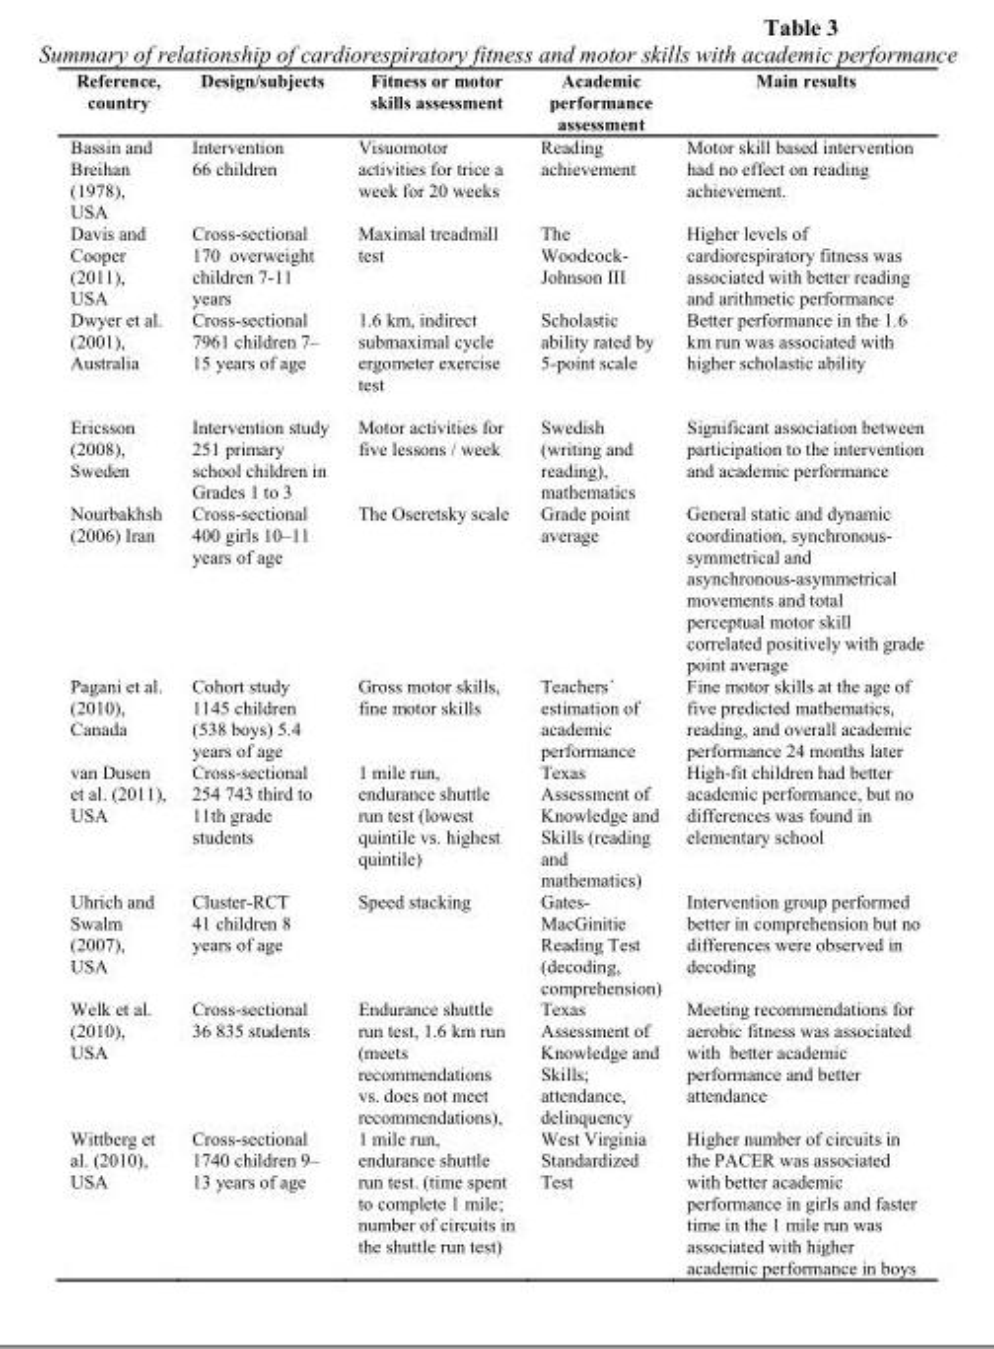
<table><thead><tr><td>Reference, country</td><td>Design/subjects</td><td>Fitness or motor skills assessment</td><td>Academic performance assessment</td><td>Main results</td></tr></thead><tbody><tr><td>Bassin and Breihan (1978), USA</td><td>Intervention 66 children</td><td>Visuomotor activities for trice a week for 20 weeks</td><td>Reading achievement</td><td>Motor skill based intervention had no effect on reading achievement.</td></tr><tr><td>Davis and Cooper (2011), USA</td><td>Cross-sectional 170 overweight children 7-11 years</td><td>Maximal treadmill test</td><td>The Woodcock- Johnson III</td><td>Higher levels of cardiorespiratory fitness was associated with better reading and arithmetic performance</td></tr><tr><td>Dwyer et al. (2001), Australia</td><td>Cross-sectional 7961 children 7– 15 years of age</td><td>1.6 km, indirect submaximal cycle ergometer exercise test</td><td>Scholastic ability rated by 5-point scale</td><td>Better performance in the 1.6 km run was associated with higher scholastic ability</td></tr><tr><td>Ericsson (2008), Sweden</td><td>Intervention study 251 primary school children in Grades 1 to 3</td><td>Motor activities for five lessons / week</td><td>Swedish (writing and reading), mathematics</td><td>Significant association between participation to the intervention and academic performance</td></tr><tr><td>Nourbakhsh (2006) Iran</td><td>Cross-sectional 400 girls 10–11 years of age</td><td>The Oseretsky scale</td><td>Grade point average</td><td>General static and dynamic coordination, synchronous- symmetrical and asynchronous-asymmetrical movements and total perceptual motor skill correlated positively with grade point average</td></tr><tr><td>Pagani et al. (2010), Canada</td><td>Cohort study 1145 children (538 boys) 5.4 years of age</td><td>Gross motor skills, fine motor skills</td><td>Teachers´ estimation of academic performance</td><td>Fine motor skills at the age of five predicted mathematics, reading, and overall academic performance 24 months later</td></tr><tr><td>van Dusen et al. (2011), USA</td><td>Cross-sectional 254 743 third to 11th grade students</td><td>1 mile run, endurance shuttle run test (lowest quintile vs. highest quintile)</td><td>Texas Assessment of Knowledge and Skills (reading and mathematics)</td><td>High-fit children had better academic performance, but no differences was found in elementary school</td></tr><tr><td>Uhrich and Swalm (2007), USA</td><td>Cluster-RCT 41 children 8 years of age</td><td>Speed stacking</td><td>Gates- MacGinitie Reading Test (decoding, comprehension)</td><td>Intervention group performed better in comprehension but no differences were observed in decoding</td></tr><tr><td>Welk et al. (2010), USA</td><td>Cross-sectional 36 835 students</td><td>Endurance shuttle run test, 1.6 km run (meets recommendations vs. does not meet recommendations),</td><td>Texas Assessment of Knowledge and Skills; attendance, delinquency</td><td>Meeting recommendations for aerobic fitness was associated with better academic performance and better attendance</td></tr><tr><td>Wittberg et al. (2010), USA</td><td>Cross-sectional 1740 children 9– 13 years of age</td><td>1 mile run, endurance shuttle run test. (time spent to complete 1 mile; number of circuits in the shuttle run test)</td><td>West Virginia Standardized Test</td><td>Higher number of circuits in the PACER was associated with better academic performance in girls and faster time in the 1 mile run was associated with higher academic performance in boys</td></tr></tbody></table>